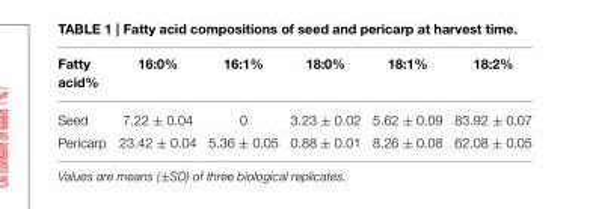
<table><thead><tr><td>Fatty acid%</td><td>16:0%</td><td>16:1%</td><td>18:0%</td><td>18:1%</td><td>18:2%</td></tr></thead><tbody><tr><td>Seed</td><td>7.22 ± 0.04</td><td>0</td><td>3.23 ± 0.02</td><td>5.62 ± 0.09</td><td>83.92 ± 0.07</td></tr><tr><td>Pericarp</td><td>23.42 ± 0.04</td><td>5.36 ± 0.05</td><td>0.88 ± 0.01</td><td>8.26 ± 0.08</td><td>62.08 ± 0.05</td></tr></tbody></table>